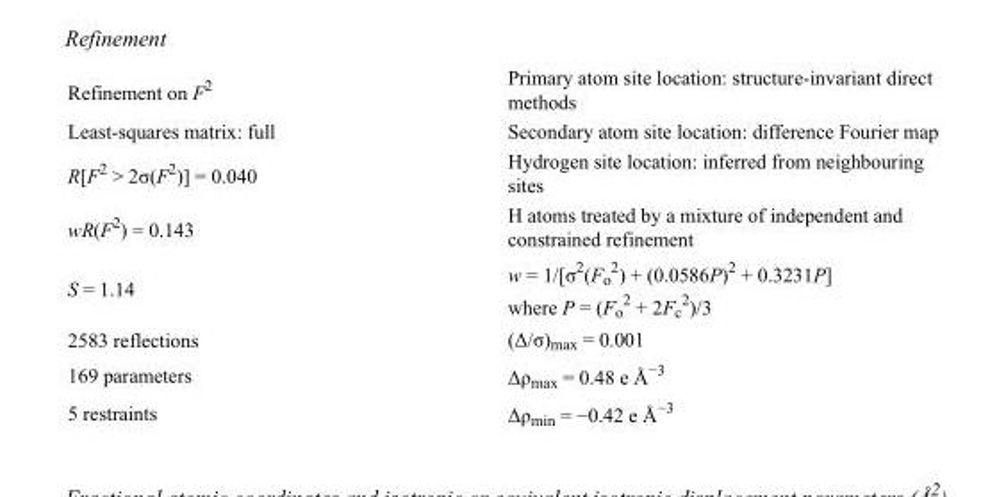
<table><tbody><tr><td>Refinement on F<sup>2</sup></td><td>Primary atom site location: structure-invariant direct methods</td></tr><tr><td>Least-squares matrix: full</td><td>Secondary atom site location: difference Fourier map</td></tr><tr><td>R[F<sup>2</sup> &gt; 2σ(F<sup>2</sup>)] = 0.040</td><td>Hydrogen site location: inferred from neighbouring sites</td></tr><tr><td>wR(F<sup>2</sup>) = 0.143</td><td>H atoms treated by a mixture of independent and constrained refinement</td></tr><tr><td>S = 1.14</td><td>w = 1/[σ<sup>2</sup>(F<sub>o</sub> <sup>2</sup>) + (0.0586P)<sup>2</sup> + 0.3231P] where P = (F<sub>o</sub> <sup>2</sup> + 2F<sub>c</sub> <sup>2</sup>)/3</td></tr><tr><td>2583 reflections</td><td>(Δ/σ)<sub>max</sub> = 0.001</td></tr><tr><td>169 parameters</td><td>Δρ<sub>max</sub> = 0.48 e Å<sup>−3</sup></td></tr><tr><td>5 restraints</td><td>Δρ<sub>min</sub> = −0.42 e Å<sup>−3</sup></td></tr></tbody></table>